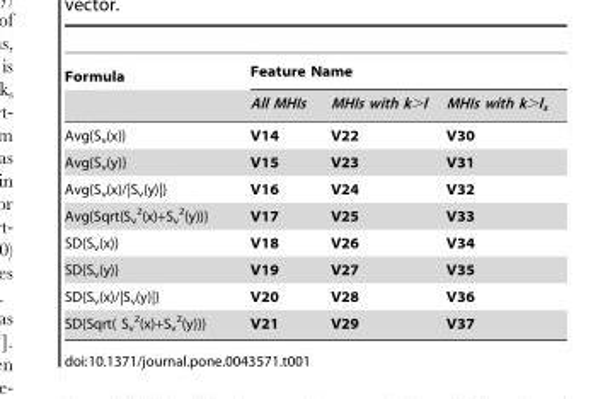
<table><thead><tr><td rowspan="2">Formula</td><td colspan="3">Feature Name</td></tr><tr><td>All MHIs</td><td>MHIs with k&gt;l</td><td>MHIs with k&gt;l<sub>s</sub></td></tr></thead><tbody><tr><td>Avg{S<sub>v</sub>(x)}</td><td>V14</td><td>V22</td><td>V30</td></tr><tr><td>Avg{S<sub>v</sub>(y)}</td><td>V15</td><td>V23</td><td>V31</td></tr><tr><td>Avg{S<sub>v</sub>(x)/|S<sub>v</sub>(y)|}</td><td>V16</td><td>V24</td><td>V32</td></tr><tr><td>Avg{Sqrt(S<sub>v</sub> <sup>2</sup>(x)+S<sub>v</sub> <sup>2</sup>(y))}</td><td>V17</td><td>V25</td><td>V33</td></tr><tr><td>SD{S<sub>v</sub>(x)}</td><td>V18</td><td>V26</td><td>V34</td></tr><tr><td>SD{S<sub>v</sub>(y)}</td><td>V19</td><td>V27</td><td>V35</td></tr><tr><td>SD{S<sub>v</sub>(x)/|S<sub>v</sub>(y)|}</td><td>V20</td><td>V28</td><td>V36</td></tr><tr><td>SD{Sqrt( S<sub>v</sub> <sup>2</sup>(x)+S<sub>v</sub> <sup>2</sup>(y))}</td><td>V21</td><td>V29</td><td>V37</td></tr></tbody></table>